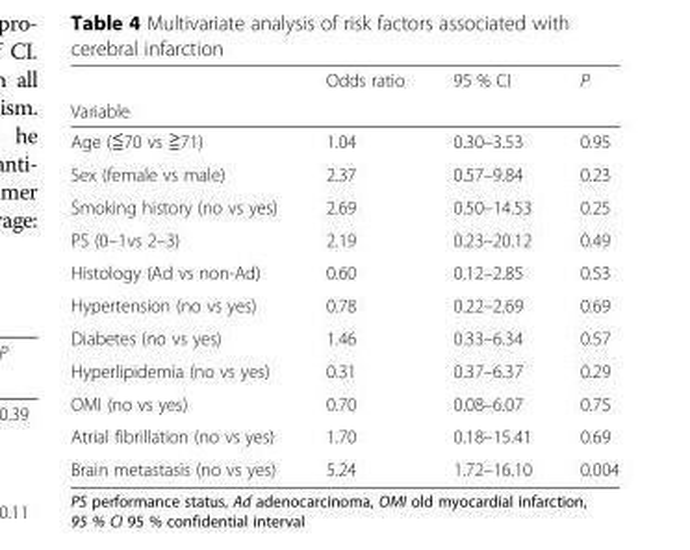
<table><thead><tr><td rowspan="2">Variable</td><td rowspan="2">Odds ratio</td><td rowspan="2">95 % CI</td><td rowspan="2">P</td></tr><tr></tr></thead><tbody><tr><td>Age (≦70 vs ≧71)</td><td>1.04</td><td>0.30–3.53</td><td>0.95</td></tr><tr><td>Sex (female vs male)</td><td>2.37</td><td>0.57–9.84</td><td>0.23</td></tr><tr><td>Smoking history (no vs yes)</td><td>2.69</td><td>0.50–14.53</td><td>0.25</td></tr><tr><td>PS (0–1vs 2–3)</td><td>2.19</td><td>0.23–20.12</td><td>0.49</td></tr><tr><td>Histology (Ad vs non-Ad)</td><td>0.60</td><td>0.12–2.85</td><td>0.53</td></tr><tr><td>Hypertension (no vs yes)</td><td>0.78</td><td>0.22–2.69</td><td>0.69</td></tr><tr><td>Diabetes (no vs yes)</td><td>1.46</td><td>0.33–6.34</td><td>0.57</td></tr><tr><td>Hyperlipidemia (no vs yes)</td><td>0.31</td><td>0.37–6.37</td><td>0.29</td></tr><tr><td>OMI (no vs yes)</td><td>0.70</td><td>0.08–6.07</td><td>0.75</td></tr><tr><td>Atrial fibrillation (no vs yes)</td><td>1.70</td><td>0.18–15.41</td><td>0.69</td></tr><tr><td>Brain metastasis (no vs yes)</td><td>5.24</td><td>1.72–16.10</td><td>0.004</td></tr></tbody></table>